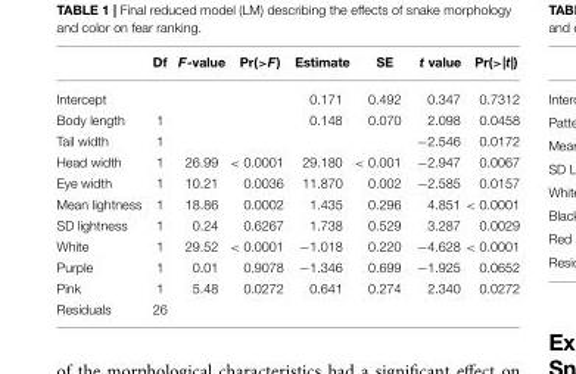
<table><thead><tr><td></td><td>Df</td><td>F-value</td><td>Pr(&gt;F)</td><td>Estimate</td><td>SE</td><td>t value</td><td>Pr(&gt;|t|)</td></tr></thead><tbody><tr><td>Intercept</td><td></td><td></td><td></td><td>0.171</td><td>0.492</td><td>0.347</td><td>0.7312</td></tr><tr><td>Body length</td><td>1</td><td></td><td></td><td>0.148</td><td>0.070</td><td>2.098</td><td>0.0458</td></tr><tr><td>Tail width</td><td>1</td><td></td><td></td><td></td><td></td><td>−2.546</td><td>0.0172</td></tr><tr><td>Head width</td><td>1</td><td>26.99</td><td>&lt; 0.0001</td><td>29.180</td><td>&lt; 0.001</td><td>−2.947</td><td>0.0067</td></tr><tr><td>Eye width</td><td>1</td><td>10.21</td><td>0.0036</td><td>11.870</td><td>0.002</td><td>−2.585</td><td>0.0157</td></tr><tr><td>Mean lightness</td><td>1</td><td>18.86</td><td>0.0002</td><td>1.435</td><td>0.296</td><td>4.851</td><td>&lt; 0.0001</td></tr><tr><td>SD lightness</td><td>1</td><td>0.24</td><td>0.6267</td><td>1.738</td><td>0.529</td><td>3.287</td><td>0.0029</td></tr><tr><td>White</td><td>1</td><td>29.52</td><td>&lt; 0.0001</td><td>−1.018</td><td>0.220</td><td>−4.628</td><td>&lt; 0.0001</td></tr><tr><td>Purple</td><td>1</td><td>0.01</td><td>0.9078</td><td>−1.346</td><td>0.699</td><td>−1.925</td><td>0.0652</td></tr><tr><td>Pink</td><td>1</td><td>5.48</td><td>0.0272</td><td>0.641</td><td>0.274</td><td>2.340</td><td>0.0272</td></tr><tr><td>Residuals</td><td>26</td><td></td><td></td><td></td><td></td><td></td><td></td></tr></tbody></table>